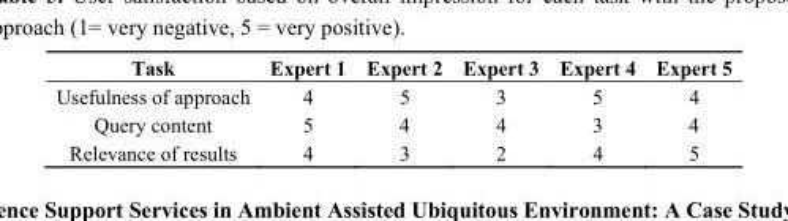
<table><thead><tr><td>Task</td><td>Expert 1</td><td>Expert 2</td><td>Expert 3</td><td>Expert 4</td><td>Expert 5</td></tr></thead><tbody><tr><td>Usefulness of approach</td><td>4</td><td>5</td><td>3</td><td>5</td><td>4</td></tr><tr><td>Query content</td><td>5</td><td>4</td><td>4</td><td>3</td><td>4</td></tr><tr><td>Relevance of results</td><td>4</td><td>3</td><td>2</td><td>4</td><td>5</td></tr></tbody></table>